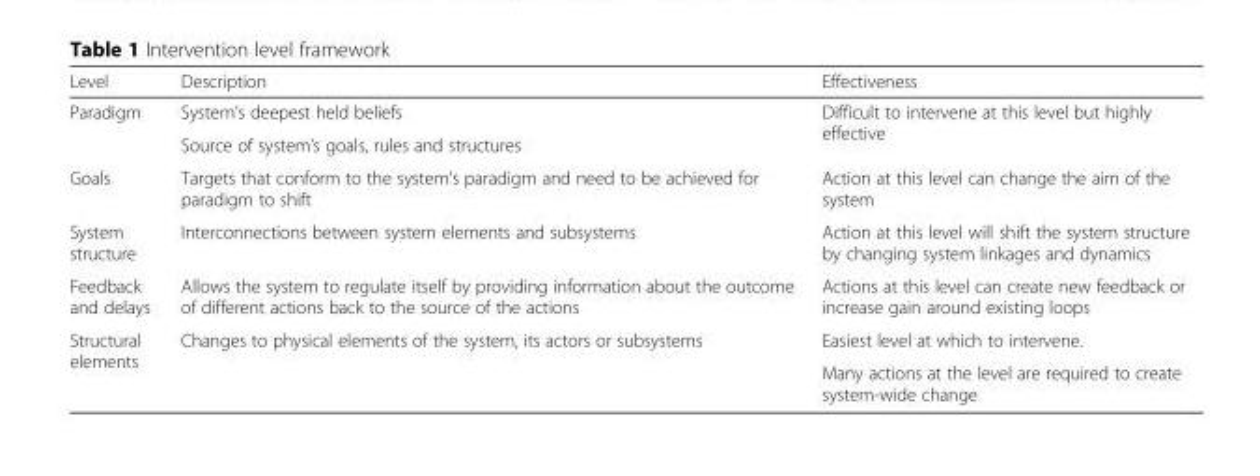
<table><thead><tr><td>Level</td><td>Description</td><td>Effectiveness</td></tr></thead><tbody><tr><td rowspan="2">Paradigm</td><td>System’s deepest held beliefs</td><td rowspan="2">Difficult to intervene at this level but highly effective</td></tr><tr><td>Source of system’s goals, rules and structures</td></tr><tr><td>Goals</td><td>Targets that conform to the system’s paradigm and need to be achieved for paradigm to shift</td><td>Action at this level can change the aim of the system</td></tr><tr><td>System structure</td><td>Interconnections between system elements and subsystems</td><td>Action at this level will shift the system structure by changing system linkages and dynamics</td></tr><tr><td>Feedback and delays</td><td>Allows the system to regulate itself by providing information about the outcome of different actions back to the source of the actions</td><td>Actions at this level can create new feedback or increase gain around existing loops</td></tr><tr><td rowspan="2">Structural elements</td><td rowspan="2">Changes to physical elements of the system, its actors or subsystems</td><td>Easiest level at which to intervene.</td></tr><tr><td>Many actions at the level are required to create system-wide change</td></tr></tbody></table>